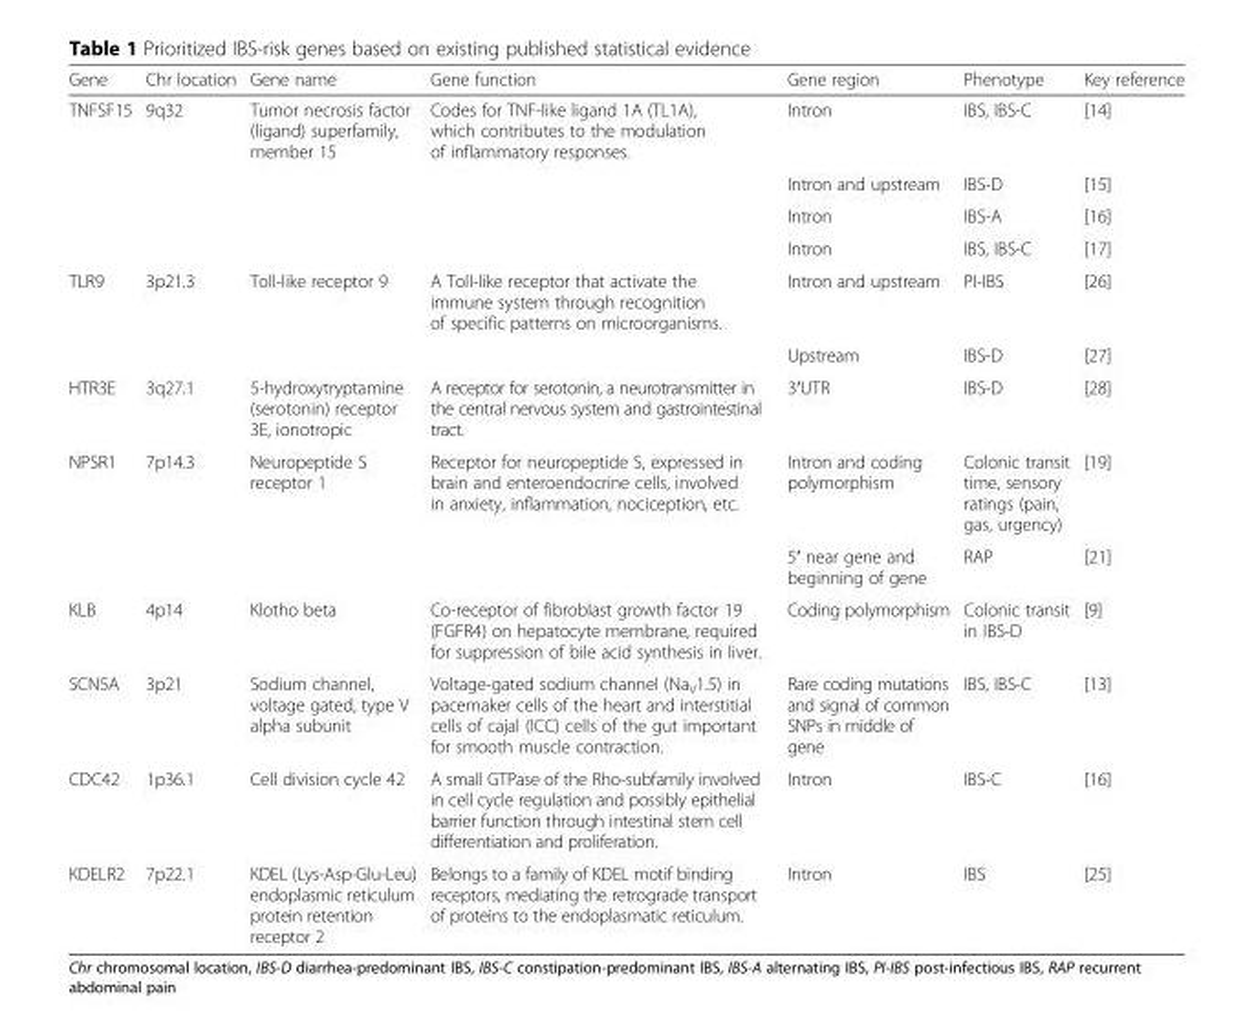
<table><thead><tr><td>Gene</td><td>Chr location</td><td>Gene name</td><td>Gene function</td><td>Gene region</td><td>Phenotype</td><td>Key reference</td></tr></thead><tbody><tr><td rowspan="4">TNFSF15</td><td>9q32</td><td>Tumor necrosis factor (ligand) superfamily, member 15</td><td>Codes for TNF-like ligand 1A (TL1A), which contributes to the modulation of inflammatory responses.</td><td>Intron</td><td>IBS, IBS-C</td><td>[14]</td></tr><tr><td></td><td></td><td></td><td>Intron and upstream</td><td>IBS-D</td><td>[15]</td></tr><tr><td></td><td></td><td></td><td>Intron</td><td>IBS-A</td><td>[16]</td></tr><tr><td></td><td></td><td></td><td>Intron</td><td>IBS, IBS-C</td><td>[17]</td></tr><tr><td rowspan="2">TLR9</td><td>3p21.3</td><td>Toll-like receptor 9</td><td>A Toll-like receptor that activate the immune system through recognition of specific patterns on microorganisms.</td><td>Intron and upstream</td><td>PI-IBS</td><td>[26]</td></tr><tr><td></td><td></td><td></td><td>Upstream</td><td>IBS-D</td><td>[27]</td></tr><tr><td>HTR3E</td><td>3q27.1</td><td>5-hydroxytryptamine (serotonin) receptor 3E, ionotropic</td><td>A receptor for serotonin, a neurotransmitter in the central nervous system and gastrointestinal tract.</td><td>3′UTR</td><td>IBS-D</td><td>[28]</td></tr><tr><td rowspan="2">NPSR1</td><td>7p14.3</td><td>Neuropeptide S receptor 1</td><td>Receptor for neuropeptide S, expressed in brain and enteroendocrine cells, involved in anxiety, inflammation, nociception, etc.</td><td>Intron and coding polymorphism</td><td>Colonic transit time, sensory ratings (pain, gas, urgency)</td><td>[19]</td></tr><tr><td></td><td></td><td></td><td>5′ near gene and beginning of gene</td><td>RAP</td><td>[21]</td></tr><tr><td>KLB</td><td>4p14</td><td>Klotho beta</td><td>Co-receptor of fibroblast growth factor 19 (FGFR4) on hepatocyte membrane, required for suppression of bile acid synthesis in liver.</td><td>Coding polymorphism</td><td>Colonic transit in IBS-D</td><td>[9]</td></tr><tr><td>SCN5A</td><td>3p21</td><td>Sodium channel, voltage gated, type V alpha subunit</td><td>Voltage-gated sodium channel (Na<sub>V</sub>1.5) in pacemaker cells of the heart and interstitial cells of cajal (ICC) cells of the gut important for smooth muscle contraction.</td><td>Rare coding mutations and signal of common SNPs in middle of gene</td><td>IBS, IBS-C</td><td>[13]</td></tr><tr><td>CDC42</td><td>1p36.1</td><td>Cell division cycle 42</td><td>A small GTPase of the Rho-subfamily involved in cell cycle regulation and possibly epithelial barrier function through intestinal stem cell differentiation and proliferation.</td><td>Intron</td><td>IBS-C</td><td>[16]</td></tr><tr><td>KDELR2</td><td>7p22.1</td><td>KDEL (Lys-Asp-Glu-Leu) endoplasmic reticulum protein retention receptor 2</td><td>Belongs to a family of KDEL motif binding receptors, mediating the retrograde transport of proteins to the endoplasmatic reticulum.</td><td>Intron</td><td>IBS</td><td>[25]</td></tr></tbody></table>